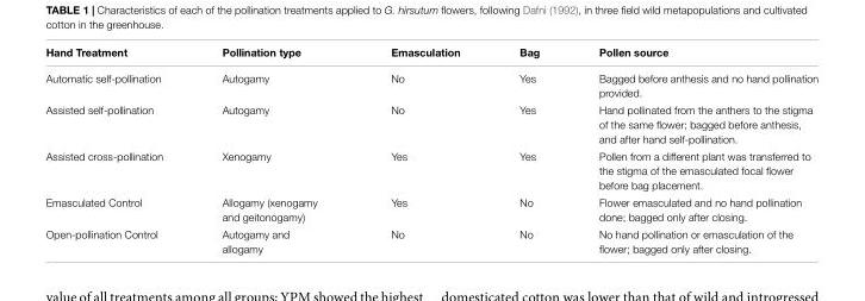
<table><thead><tr><td>Hand Treatment</td><td>Pollination type</td><td>Emasculation</td><td>Bag</td><td>Pollen source</td></tr></thead><tbody><tr><td>Automatic self-pollination</td><td>Autogamy</td><td>No</td><td>Yes</td><td>Bagged before anthesis and no hand pollination provided.</td></tr><tr><td>Assisted self-pollination</td><td>Autogamy</td><td>No</td><td>Yes</td><td>Hand pollinated from the anthers to the stigma of the same flower; bagged before anthesis, and after hand self-pollination.</td></tr><tr><td>Assisted cross-pollination</td><td>Xenogamy</td><td>Yes</td><td>Yes</td><td>Pollen from a different plant was transferred to the stigma of the emasculated focal flower before bag placement.</td></tr><tr><td>Emasculated Control</td><td>Allogamy (xenogamy and geitonogamy)</td><td>Yes</td><td>No</td><td>Flower emasculated and no hand pollination done; bagged only after closing.</td></tr><tr><td>Open-pollination Control</td><td>Autogamy and allogamy</td><td>No</td><td>No</td><td>No hand pollination or emasculation of the flower; bagged only after closing.</td></tr></tbody></table>